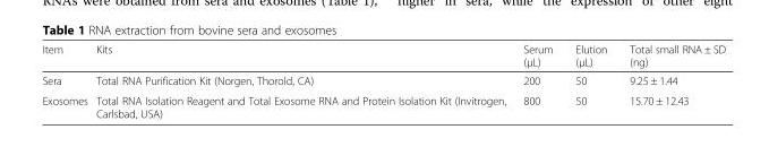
<table><thead><tr><td>Item</td><td>Kits</td><td>Serum (μL)</td><td>Elution (μL)</td><td>Total small RNA ± SD (ng)</td></tr></thead><tbody><tr><td>Sera</td><td>Total RNA Purification Kit (Norgen, Thorold, CA)</td><td>200</td><td>50</td><td>9.25 ± 1.44</td></tr><tr><td>Exosomes</td><td>Total RNA Isolation Reagent and Total Exosome RNA and Protein Isolation Kit (Invitrogen, Carlsbad, USA)</td><td>800</td><td>50</td><td>15.70 ± 12.43</td></tr></tbody></table>